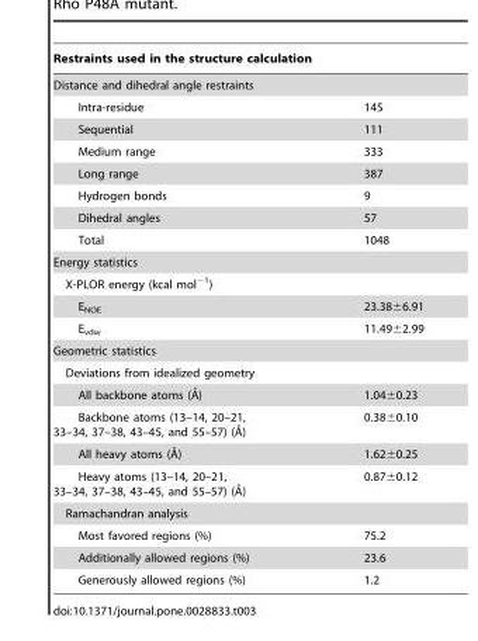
<table><thead><tr><td colspan="2">Restraints used in the structure calculation</td></tr><tr><td>Distance and dihedral angle restraints</td><td></td></tr></thead><tbody><tr><td>Intra-residue</td><td>145</td></tr><tr><td>Sequential</td><td>111</td></tr><tr><td>Medium range</td><td>333</td></tr><tr><td>Long range</td><td>387</td></tr><tr><td>Hydrogen bonds</td><td>9</td></tr><tr><td>Dihedral angles</td><td>57</td></tr><tr><td>Total</td><td>1048</td></tr><tr><td colspan="2">Energy statistics</td></tr><tr><td colspan="2">X-PLOR energy (kcal mol<sup>−1</sup>)</td></tr><tr><td>E<sub>NOE</sub></td><td>23.38±6.91</td></tr><tr><td>E<sub>vdw</sub></td><td>11.49±2.99</td></tr><tr><td colspan="2">Geometric statistics</td></tr><tr><td colspan="2">Deviations from idealized geometry</td></tr><tr><td>All backbone atoms (A˚)</td><td>1.04±0.23</td></tr><tr><td>Backbone atoms (13–14, 20–21, 33–34, 37–38, 43–45, and 55–57) (A˚)</td><td>0.38±0.10</td></tr><tr><td>All heavy atoms (A˚)</td><td>1.62±0.25</td></tr><tr><td>Heavy atoms (13–14, 20–21, 33–34, 37–38, 43–45, and 55–57) (A˚)</td><td>0.87±0.12</td></tr><tr><td colspan="2">Ramachandran analysis</td></tr><tr><td>Most favored regions (%)</td><td>75.2</td></tr><tr><td>Additionally allowed regions (%)</td><td>23.6</td></tr><tr><td>Generously allowed regions (%)</td><td>1.2</td></tr></tbody></table>